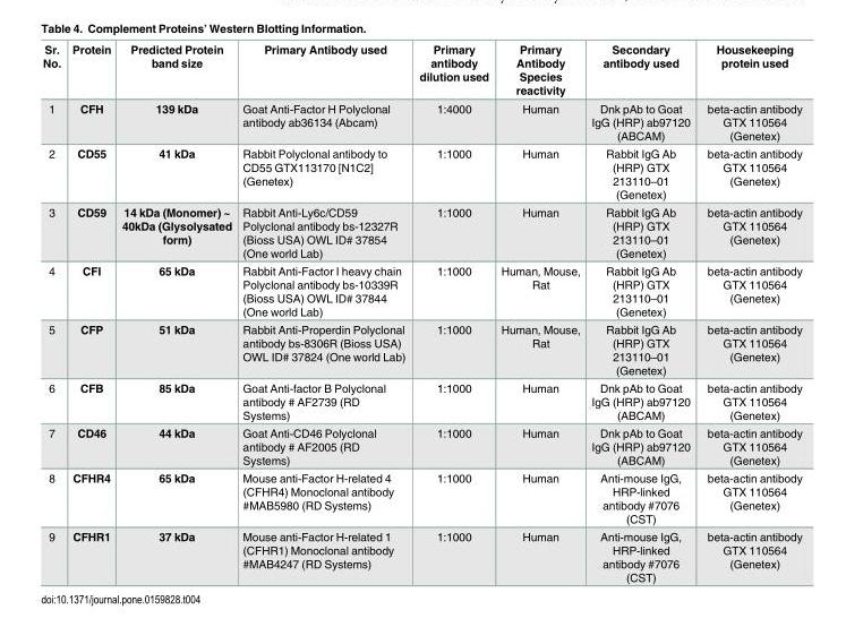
<table><thead><tr><td>Sr. No.</td><td>Protein</td><td>Predicted Protein band size</td><td>Primary Antibody used</td><td>Primary antibody dilution used</td><td>Primary Antibody Species reactivity</td><td>Secondary antibody used</td><td>Housekeeping protein used</td></tr></thead><tbody><tr><td>1</td><td>CFH</td><td>139 kDa</td><td>Goat Anti-Factor H Polyclonal antibody ab36134 (Abcam)</td><td>1:4000</td><td>Human</td><td>Dnk pAb to Goat IgG (HRP) ab97120 (ABCAM)</td><td>beta-actin antibody GTX 110564 (Genetex)</td></tr><tr><td>2</td><td>CD55</td><td>41 kDa</td><td>Rabbit Polyclonal antibody to CD55 GTX113170 [N1C2] (Genetex)</td><td>1:1000</td><td>Human</td><td>Rabbit IgG Ab (HRP) GTX 213110–01 (Genetex)</td><td>beta-actin antibody GTX 110564 (Genetex)</td></tr><tr><td>3</td><td>CD59</td><td>14 kDa (Monomer) ~ 40kDa (Glysolysated form)</td><td>Rabbit Anti-Ly6c/CD59 Polyclonal antibody bs-12327R (Bioss USA) OWL ID# 37854 (One world Lab)</td><td>1:1000</td><td>Human</td><td>Rabbit IgG Ab (HRP) GTX 213110–01 (Genetex)</td><td>beta-actin antibody GTX 110564 (Genetex)</td></tr><tr><td>4</td><td>CFI</td><td>65 kDa</td><td>Rabbit Anti-Factor I heavy chain Polyclonal antibody bs-10339R (Bioss USA) OWL ID# 37844 (One world Lab)</td><td>1:1000</td><td>Human, Mouse, Rat</td><td>Rabbit IgG Ab (HRP) GTX 213110–01 (Genetex)</td><td>beta-actin antibody GTX 110564 (Genetex)</td></tr><tr><td>5</td><td>CFP</td><td>51 kDa</td><td>Rabbit Anti-Properdin Polyclonal antibody bs-8306R (Bioss USA) OWL ID# 37824 (One world Lab)</td><td>1:1000</td><td>Human, Mouse, Rat</td><td>Rabbit IgG Ab (HRP) GTX 213110–01 (Genetex)</td><td>beta-actin antibody GTX 110564 (Genetex)</td></tr><tr><td>6</td><td>CFB</td><td>85 kDa</td><td>Goat Anti-factor B Polyclonal antibody # AF2739 (RD Systems)</td><td>1:1000</td><td>Human</td><td>Dnk pAb to Goat IgG (HRP) ab97120 (ABCAM)</td><td>beta-actin antibody GTX 110564 (Genetex)</td></tr><tr><td>7</td><td>CD46</td><td>44 kDa</td><td>Goat Anti-CD46 Polyclonal antibody # AF2005 (RD Systems)</td><td>1:1000</td><td>Human</td><td>Dnk pAb to Goat IgG (HRP) ab97120 (ABCAM)</td><td>beta-actin antibody GTX 110564 (Genetex)</td></tr><tr><td>8</td><td>CFHR4</td><td>65 kDa</td><td>Mouse anti-Factor H-related 4 (CFHR4) Monoclonal antibody #MAB5980 (RD Systems)</td><td>1:1000</td><td>Human</td><td>Anti-mouse IgG, HRP-linked antibody #7076 (CST)</td><td>beta-actin antibody GTX 110564 (Genetex)</td></tr><tr><td>9</td><td>CFHR1</td><td>37 kDa</td><td>Mouse anti-Factor H-related 1 (CFHR1) Monoclonal antibody #MAB4247 (RD Systems)</td><td>1:1000</td><td>Human</td><td>Anti-mouse IgG, HRP-linked antibody #7076 (CST)</td><td>beta-actin antibody GTX 110564 (Genetex)</td></tr></tbody></table>